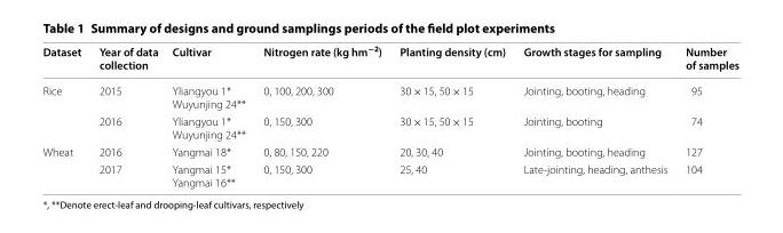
<table><thead><tr><td>Dataset</td><td>Year of data collection</td><td>Cultivar</td><td>Nitrogen rate (kg hm<sup>−2</sup>)</td><td>Planting density (cm)</td><td>Growth stages for sampling</td><td>Number of samples</td></tr></thead><tbody><tr><td rowspan="2">Rice</td><td>2015</td><td>Yliangyou 1* Wuyunjing 24**</td><td>0, 100, 200, 300</td><td>30 × 15, 50 × 15</td><td>Jointing, booting, heading</td><td>95</td></tr><tr><td>2016</td><td>Yliangyou 1* Wuyunjing 24**</td><td>0, 150, 300</td><td>30 × 15, 50 × 15</td><td>Jointing, booting</td><td>74</td></tr><tr><td rowspan="2">Wheat</td><td>2016</td><td>Yangmai 18*</td><td>0, 80, 150, 220</td><td>20, 30, 40</td><td>Jointing, booting, heading</td><td>127</td></tr><tr><td>2017</td><td>Yangmai 15* Yangmai 16**</td><td>0, 150, 300</td><td>25, 40</td><td>Late-jointing, heading, anthesis</td><td>104</td></tr></tbody></table>